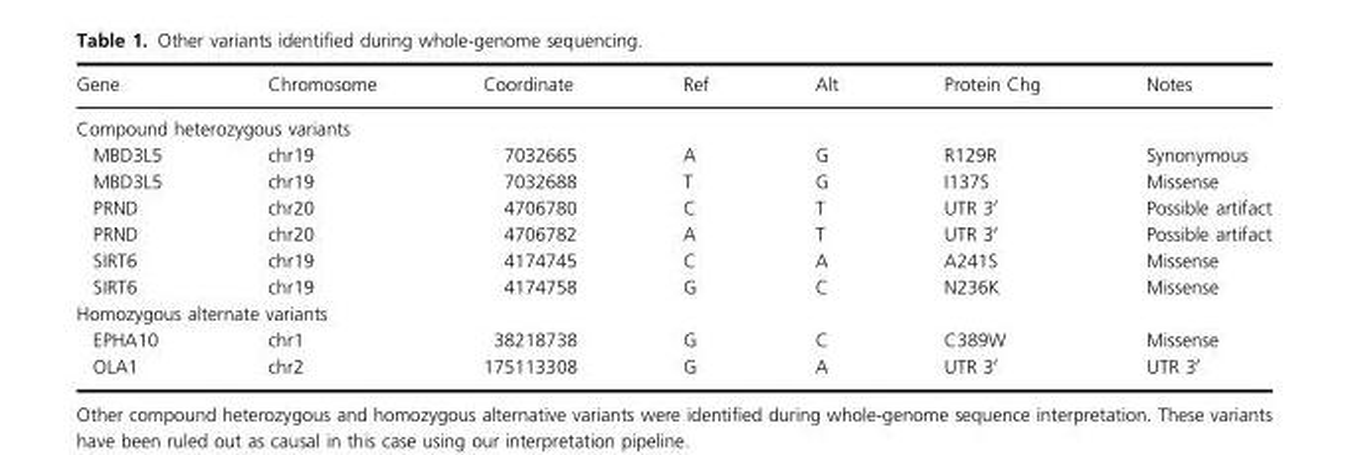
<table><thead><tr><td>Gene</td><td>Chromosome</td><td>Coordinate</td><td>Ref</td><td>Alt</td><td>Protein Chg</td><td>Notes</td></tr></thead><tbody><tr><td colspan="7">Compound heterozygous variants</td></tr><tr><td>MBD3L5</td><td>chr19</td><td>7032665</td><td>A</td><td>G</td><td>R129R</td><td>Synonymous</td></tr><tr><td>MBD3L5</td><td>chr19</td><td>7032688</td><td>T</td><td>G</td><td>I137S</td><td>Missense</td></tr><tr><td>PRND</td><td>chr20</td><td>4706780</td><td>C</td><td>T</td><td>UTR 3′</td><td>Possible artifact</td></tr><tr><td>PRND</td><td>chr20</td><td>4706782</td><td>A</td><td>T</td><td>UTR 3′</td><td>Possible artifact</td></tr><tr><td>SIRT6</td><td>chr19</td><td>4174745</td><td>C</td><td>A</td><td>A241S</td><td>Missense</td></tr><tr><td>SIRT6</td><td>chr19</td><td>4174758</td><td>G</td><td>C</td><td>N236K</td><td>Missense</td></tr><tr><td colspan="7">Homozygous alternate variants</td></tr><tr><td>EPHA10</td><td>chr1</td><td>38218738</td><td>G</td><td>C</td><td>C389W</td><td>Missense</td></tr><tr><td>OLA1</td><td>chr2</td><td>175113308</td><td>G</td><td>A</td><td>UTR 3′</td><td>UTR 3′</td></tr></tbody></table>